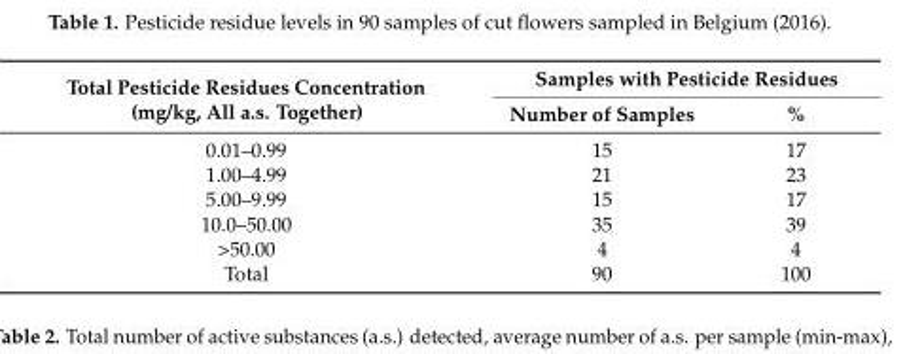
<table><thead><tr><td rowspan="2">Total Pesticide Residues Concentration (mg/kg, All a.s. Together)</td><td colspan="2">Samples with Pesticide Residues</td></tr><tr><td>Number of Samples</td><td>%</td></tr></thead><tbody><tr><td>0.01–0.99</td><td>15</td><td>17</td></tr><tr><td>1.00–4.99</td><td>21</td><td>23</td></tr><tr><td>5.00–9.99</td><td>15</td><td>17</td></tr><tr><td>10.0–50.00</td><td>35</td><td>39</td></tr><tr><td>&gt;50.00</td><td>4</td><td>4</td></tr><tr><td>Total</td><td>90</td><td>100</td></tr></tbody></table>